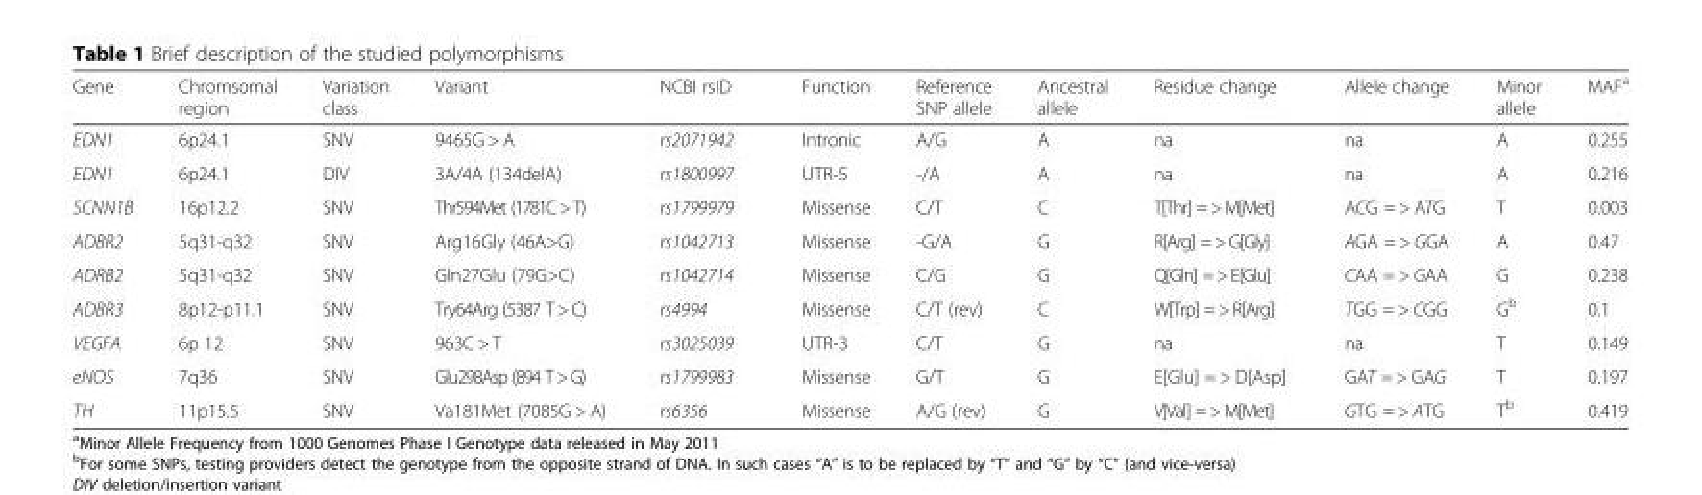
<table><thead><tr><td>Gene</td><td>Chromsomal region</td><td>Variation class</td><td>Variant</td><td>NCBI rsID</td><td>Function</td><td>Reference SNP allele</td><td>Ancestral allele</td><td>Residue change</td><td>Allele change</td><td>Minor allele</td><td>MAF<sup>a</sup></td></tr></thead><tbody><tr><td>EDN1</td><td>6p24.1</td><td>SNV</td><td>9465G &gt; A</td><td>rs2071942</td><td>Intronic</td><td>A/G</td><td>A</td><td>na</td><td>na</td><td>A</td><td>0.255</td></tr><tr><td>EDN1</td><td>6p24.1</td><td>DIV</td><td>3A/4A (134delA)</td><td>rs1800997</td><td>UTR-5</td><td>-/A</td><td>A</td><td>na</td><td>na</td><td>A</td><td>0.216</td></tr><tr><td>SCNN1B</td><td>16p12.2</td><td>SNV</td><td>Thr594Met (1781C&gt;T)</td><td>rs1799979</td><td>Missense</td><td>C/T</td><td>C</td><td>T[Thr] =&gt;M[Met]</td><td>ACG = &gt; ATG</td><td>T</td><td>0.003</td></tr><tr><td>ADBR2</td><td>5q31-q32</td><td>SNV</td><td>Arg16Gly (46A&gt;G)</td><td>rs1042713</td><td>Missense</td><td>-G/A</td><td>G</td><td>R[Arg] =&gt; G[Gly]</td><td>AGA = &gt; GGA</td><td>A</td><td>0.47</td></tr><tr><td>ADRB2</td><td>5q31-q32</td><td>SNV</td><td>Gln27Glu (79G&gt;C)</td><td>rs1042714</td><td>Missense</td><td>C/G</td><td>G</td><td>Q[Gln] =&gt; E[Glu]</td><td>CAA = &gt; GAA</td><td>G</td><td>0.238</td></tr><tr><td>ADBR3</td><td>8p12-p11.1</td><td>SNV</td><td>Try64Arg (5387 T &gt; C)</td><td>rs4994</td><td>Missense</td><td>C/T (rev)</td><td>C</td><td>W[Trp] =&gt;R[Arg]</td><td>TGG = &gt; CGG</td><td>G<sup>b</sup></td><td>0.1</td></tr><tr><td>VEGFA</td><td>6p 12</td><td>SNV</td><td>963C &gt; T</td><td>rs3025039</td><td>UTR-3</td><td>C/T</td><td>G</td><td>na</td><td>na</td><td>T</td><td>0.149</td></tr><tr><td>eNOS</td><td>7q36</td><td>SNV</td><td>Glu298Asp (894 T&gt;G)</td><td>rs1799983</td><td>Missense</td><td>G/T</td><td>G</td><td>E[Glu] = &gt; D[Asp]</td><td>GAT = &gt; GAG</td><td>T</td><td>0.197</td></tr><tr><td>TH</td><td>11p15.5</td><td>SNV</td><td>Va181Met (7085G &gt; A)</td><td>rs6356</td><td>Missense</td><td>A/G (rev)</td><td>G</td><td>V]Val] =&gt;M[Met]</td><td>GTG = &gt; ATG</td><td>T<sup>b</sup></td><td>0.419</td></tr></tbody></table>